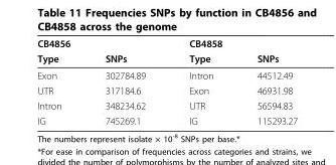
<table><thead><tr><td colspan="2">CB4856</td><td colspan="2">CB4858</td></tr><tr><td>Type</td><td>SNPs</td><td>Type</td><td>SNPs</td></tr></thead><tbody><tr><td>Exon</td><td>302784.89</td><td>Intron</td><td>44512.49</td></tr><tr><td>UTR</td><td>317184.6</td><td>Exon</td><td>46931.98</td></tr><tr><td>Intron</td><td>348234.62</td><td>UTR</td><td>56594.83</td></tr><tr><td>IG</td><td>745269.1</td><td>IG</td><td>115293.27</td></tr></tbody></table>